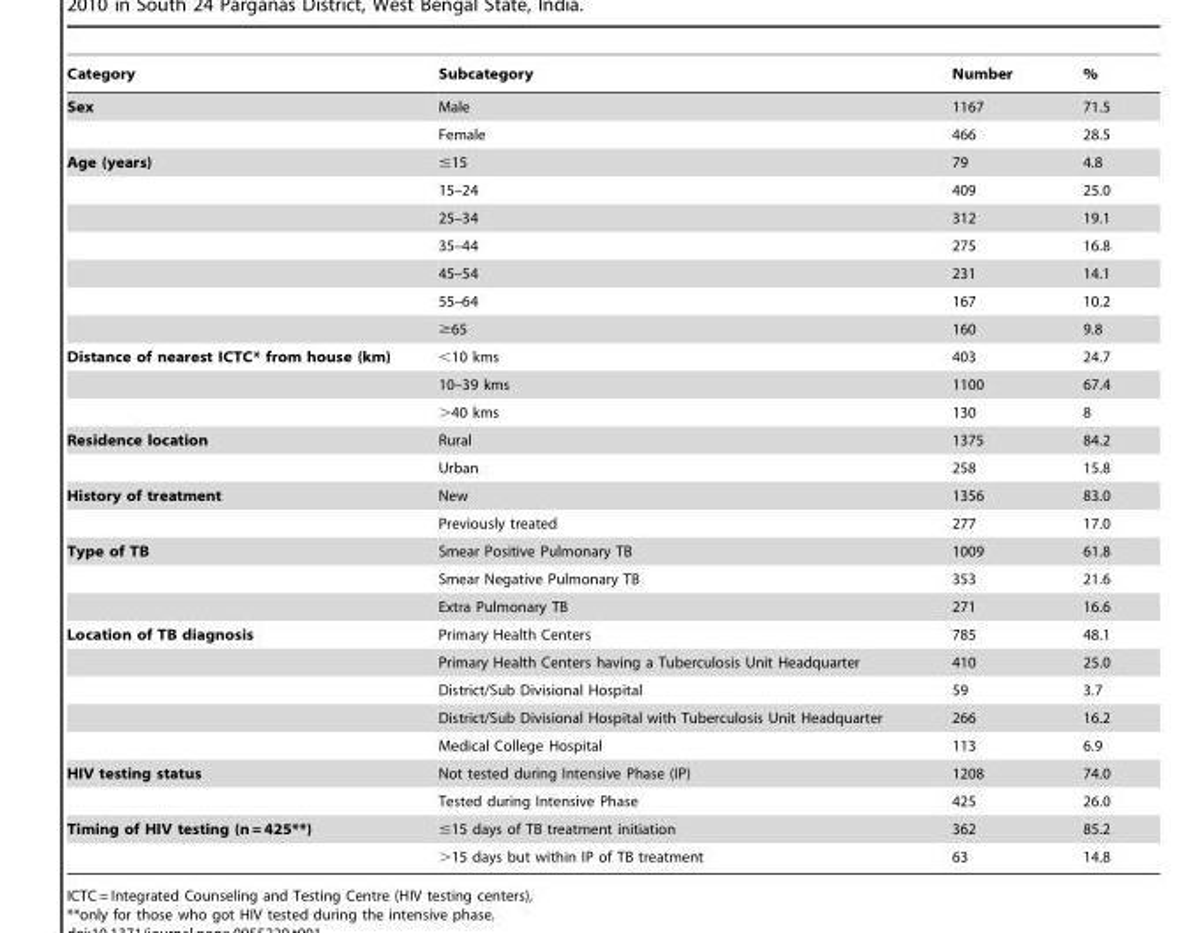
<table><thead><tr><td>Category</td><td>Subcategory</td><td>Number</td><td>%</td></tr></thead><tbody><tr><td rowspan="2">Sex</td><td>Male</td><td>1167</td><td>71.5</td></tr><tr><td>Female</td><td>466</td><td>28.5</td></tr><tr><td rowspan="7">Age (years)</td><td>≤15</td><td>79</td><td>4.8</td></tr><tr><td>15–24</td><td>409</td><td>25.0</td></tr><tr><td>25–34</td><td>312</td><td>19.1</td></tr><tr><td>35–44</td><td>275</td><td>16.8</td></tr><tr><td>45–54</td><td>231</td><td>14.1</td></tr><tr><td>55–64</td><td>167</td><td>10.2</td></tr><tr><td>≥65</td><td>160</td><td>9.8</td></tr><tr><td rowspan="3">Distance of nearest ICTC* from house (km)</td><td>&lt;10 kms</td><td>403</td><td>24.7</td></tr><tr><td>10–39 kms</td><td>1100</td><td>67.4</td></tr><tr><td>&gt;40 kms</td><td>130</td><td>8</td></tr><tr><td rowspan="2">Residence location</td><td>Rural</td><td>1375</td><td>84.2</td></tr><tr><td>Urban</td><td>258</td><td>15.8</td></tr><tr><td rowspan="2">History of treatment</td><td>New</td><td>1356</td><td>83.0</td></tr><tr><td>Previously treated</td><td>277</td><td>17.0</td></tr><tr><td rowspan="3">Type of TB</td><td>Smear Positive Pulmonary TB</td><td>1009</td><td>61.8</td></tr><tr><td>Smear Negative Pulmonary TB</td><td>353</td><td>21.6</td></tr><tr><td>Extra Pulmonary TB</td><td>271</td><td>16.6</td></tr><tr><td rowspan="5">Location of TB diagnosis</td><td>Primary Health Centers</td><td>785</td><td>48.1</td></tr><tr><td>Primary Health Centers having a Tuberculosis Unit Headquarter</td><td>410</td><td>25.0</td></tr><tr><td>District/Sub Divisional Hospital</td><td>59</td><td>3.7</td></tr><tr><td>District/Sub Divisional Hospital with Tuberculosis Unit Headquarter</td><td>266</td><td>16.2</td></tr><tr><td>Medical College Hospital</td><td>113</td><td>6.9</td></tr><tr><td rowspan="2">HIV testing status</td><td>Not tested during Intensive Phase (IP)</td><td>1208</td><td>74.0</td></tr><tr><td>Tested during Intensive Phase</td><td>425</td><td>26.0</td></tr><tr><td rowspan="2">Timing of HIV testing (n = 425**)</td><td>≤15 days of TB treatment initiation</td><td>362</td><td>85.2</td></tr><tr><td>&gt;15 days but within IP of TB treatment</td><td>63</td><td>14.8</td></tr></tbody></table>